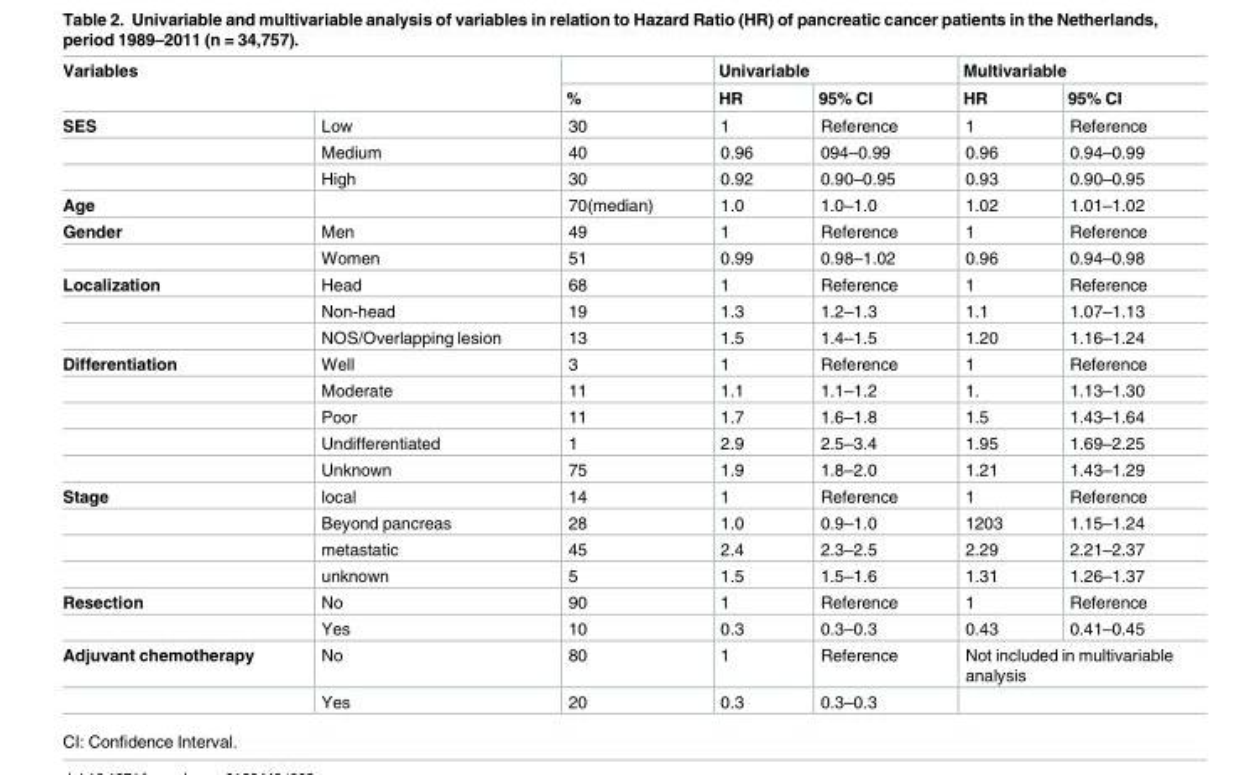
<table><thead><tr><td rowspan="2" colspan="2">Variables</td><td rowspan="3">% 30</td><td colspan="2">Univariable</td><td colspan="2">Multivariable</td></tr><tr><td rowspan="2">HR 1</td><td rowspan="2">95% CI Reference</td><td rowspan="2">HR 1</td><td rowspan="2">95% CI Reference</td></tr><tr><td>SES</td><td>Low</td></tr></thead><tbody><tr><td></td><td>Medium</td><td>40</td><td>0.96</td><td>094–0.99</td><td>0.96</td><td>0.94–0.99</td></tr><tr><td></td><td>High</td><td>30</td><td>0.92</td><td>0.90–0.95</td><td>0.93</td><td>0.90–0.95</td></tr><tr><td>Age</td><td></td><td>70(median)</td><td>1.0</td><td>1.0–1.0</td><td>1.02</td><td>1.01–1.02</td></tr><tr><td rowspan="2">Gender</td><td>Men</td><td>49</td><td>1</td><td>Reference</td><td>1</td><td>Reference</td></tr><tr><td>Women</td><td>51</td><td>0.99</td><td>0.98–1.02</td><td>0.96</td><td>0.94–0.98</td></tr><tr><td rowspan="3">Localization</td><td>Head</td><td>68</td><td>1</td><td>Reference</td><td>1</td><td>Reference</td></tr><tr><td>Non-head</td><td>19</td><td>1.3</td><td>1.2–1.3</td><td>1.1</td><td>1.07–1.13</td></tr><tr><td>NOS/Overlapping lesion</td><td>13</td><td>1.5</td><td>1.4–1.5</td><td>1.20</td><td>1.16–1.24</td></tr><tr><td rowspan="5">Differentiation</td><td>Well</td><td>3</td><td>1</td><td>Reference</td><td>1</td><td>Reference</td></tr><tr><td>Moderate</td><td>11</td><td>1.1</td><td>1.1–1.2</td><td>1.</td><td>1.13–1.30</td></tr><tr><td>Poor</td><td>11</td><td>1.7</td><td>1.6–1.8</td><td>1.5</td><td>1.43–1.64</td></tr><tr><td>Undifferentiated</td><td>1</td><td>2.9</td><td>2.5–3.4</td><td>1.95</td><td>1.69–2.25</td></tr><tr><td>Unknown</td><td>75</td><td>1.9</td><td>1.8–2.0</td><td>1.21</td><td>1.43–1.29</td></tr><tr><td rowspan="4">Stage</td><td>local</td><td>14</td><td>1</td><td>Reference</td><td>1</td><td>Reference</td></tr><tr><td>Beyond pancreas</td><td>28</td><td>1.0</td><td>0.9–1.0</td><td>1203</td><td>1.15–1.24</td></tr><tr><td>metastatic</td><td>45</td><td>2.4</td><td>2.3–2.5</td><td>2.29</td><td>2.21–2.37</td></tr><tr><td>unknown</td><td>5</td><td>1.5</td><td>1.5–1.6</td><td>1.31</td><td>1.26–1.37</td></tr><tr><td rowspan="2">Resection</td><td>No</td><td>90</td><td>1</td><td>Reference</td><td>1</td><td>Reference</td></tr><tr><td>Yes</td><td>10</td><td>0.3</td><td>0.3–0.3</td><td>0.43</td><td>0.41–0.45</td></tr><tr><td rowspan="2">Adjuvant chemotherapy</td><td>No</td><td>80</td><td>1</td><td>Reference</td><td colspan="2">Not included in multivariable analysis</td></tr><tr><td>Yes</td><td>20</td><td>0.3</td><td>0.3–0.3</td><td colspan="2"></td></tr></tbody></table>